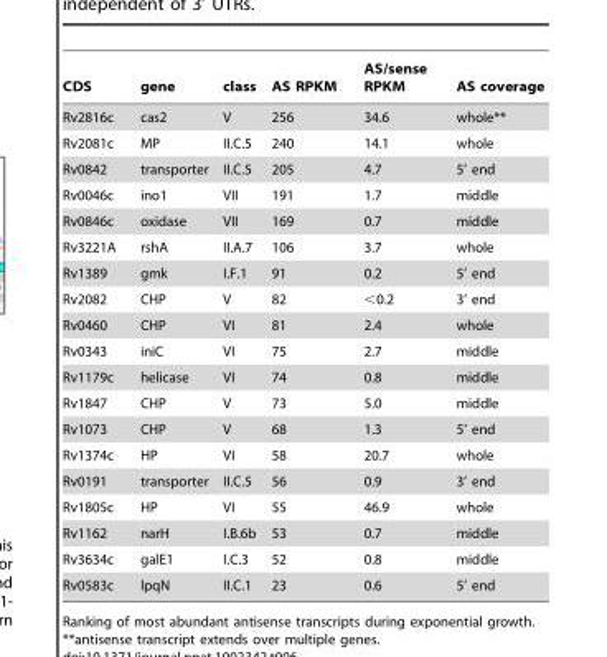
<table><thead><tr><td>CDS</td><td>gene</td><td>class</td><td>AS RPKM</td><td>AS/sense RPKM</td><td>AS coverage</td></tr></thead><tbody><tr><td>Rv2816c</td><td>cas2</td><td>V</td><td>256</td><td>34.6</td><td>whole**</td></tr><tr><td>Rv2081c</td><td>MP</td><td>II.C.5</td><td>240</td><td>14.1</td><td>whole</td></tr><tr><td>Rv0842</td><td>transporter</td><td>II.C.5</td><td>205</td><td>4.7</td><td>5’ end</td></tr><tr><td>Rv0046c</td><td>ino1</td><td>VII</td><td>191</td><td>1.7</td><td>middle</td></tr><tr><td>Rv0846c</td><td>oxidase</td><td>VII</td><td>169</td><td>0.7</td><td>middle</td></tr><tr><td>Rv3221A</td><td>rshA</td><td>II.A.7</td><td>106</td><td>3.7</td><td>whole</td></tr><tr><td>Rv1389</td><td>gmk</td><td>I.F.1</td><td>91</td><td>0.2</td><td>5’ end</td></tr><tr><td>Rv2082</td><td>CHP</td><td>V</td><td>82</td><td>&lt;0.2</td><td>3’ end</td></tr><tr><td>Rv0460</td><td>CHP</td><td>VI</td><td>81</td><td>2.4</td><td>whole</td></tr><tr><td>Rv0343</td><td>iniC</td><td>VI</td><td>75</td><td>2.7</td><td>middle</td></tr><tr><td>Rv1179c</td><td>helicase</td><td>VI</td><td>74</td><td>0.8</td><td>middle</td></tr><tr><td>Rv1847</td><td>CHP</td><td>V</td><td>73</td><td>5.0</td><td>middle</td></tr><tr><td>Rv1073</td><td>CHP</td><td>V</td><td>68</td><td>1.3</td><td>5’ end</td></tr><tr><td>Rv1374c</td><td>HP</td><td>VI</td><td>58</td><td>20.7</td><td>whole</td></tr><tr><td>Rv0191</td><td>transporter</td><td>II.C.5</td><td>56</td><td>0.9</td><td>3’ end</td></tr><tr><td>Rv1805c</td><td>HP</td><td>VI</td><td>55</td><td>46.9</td><td>whole</td></tr><tr><td>Rv1162</td><td>narH</td><td>I.B.6b</td><td>53</td><td>0.7</td><td>middle</td></tr><tr><td>Rv3634c</td><td>galE1</td><td>I.C.3</td><td>52</td><td>0.8</td><td>middle</td></tr><tr><td>Rv0583c</td><td>lpqN</td><td>II.C.1</td><td>23</td><td>0.6</td><td>5’ end</td></tr></tbody></table>